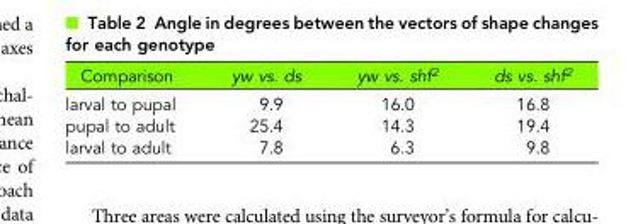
<table><thead><tr><td>Comparison</td><td>yw vs. ds</td><td>yw vs. shf<sup>2</sup></td><td>ds vs. shf<sup>2</sup></td></tr></thead><tbody><tr><td>larval to pupal</td><td>9.9</td><td>16.0</td><td>16.8</td></tr><tr><td>pupal to adult</td><td>25.4</td><td>14.3</td><td>19.4</td></tr><tr><td>larval to adult</td><td>7.8</td><td>6.3</td><td>9.8</td></tr></tbody></table>